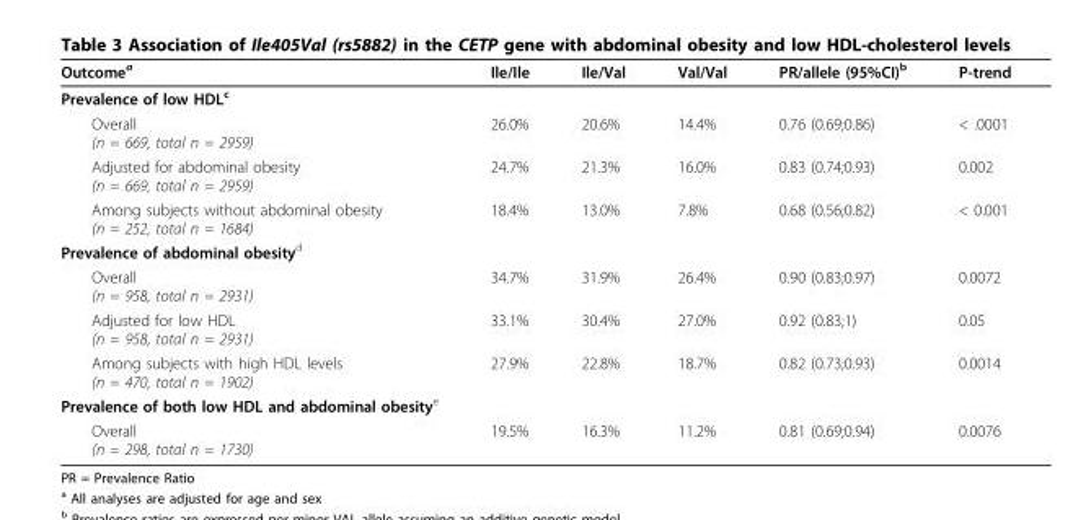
<table><thead><tr><td>Outcome<sup>a</sup></td><td>Ile/Ile</td><td>Ile/Val</td><td>Val/Val</td><td>PR/allele (95%CI)<sup>b</sup></td><td>P-trend</td></tr></thead><tbody><tr><td colspan="6">Prevalence of low HDL<sup>c</sup></td></tr><tr><td>Overall (n = 669, total n = 2959)</td><td>26.0%</td><td>20.6%</td><td>14.4%</td><td>0.76 (0.69;0.86)</td><td>&lt; .0001</td></tr><tr><td>Adjusted for abdominal obesity (n = 669, total n = 2959)</td><td>24.7%</td><td>21.3%</td><td>16.0%</td><td>0.83 (0.74;0.93)</td><td>0.002</td></tr><tr><td>Among subjects without abdominal obesity (n = 252, total n = 1684)</td><td>18.4%</td><td>13.0%</td><td>7.8%</td><td>0.68 (0.56;0.82)</td><td>&lt; 0.001</td></tr><tr><td colspan="6">Prevalence of abdominal obesity<sup>d</sup></td></tr><tr><td>Overall (n = 958, total n = 2931)</td><td>34.7%</td><td>31.9%</td><td>26.4%</td><td>0.90 (0.83;0.97)</td><td>0.0072</td></tr><tr><td>Adjusted for low HDL (n = 958, total n = 2931)</td><td>33.1%</td><td>30.4%</td><td>27.0%</td><td>0.92 (0.83;1)</td><td>0.05</td></tr><tr><td>Among subjects with high HDL levels (n = 470, total n = 1902)</td><td>27.9%</td><td>22.8%</td><td>18.7%</td><td>0.82 (0.73;0.93)</td><td>0.0014</td></tr><tr><td colspan="6">Prevalence of both low HDL and abdominal obesity<sup>e</sup></td></tr><tr><td>Overall (n = 298, total n = 1730)</td><td>19.5%</td><td>16.3%</td><td>11.2%</td><td>0.81 (0.69;0.94)</td><td>0.0076</td></tr></tbody></table>